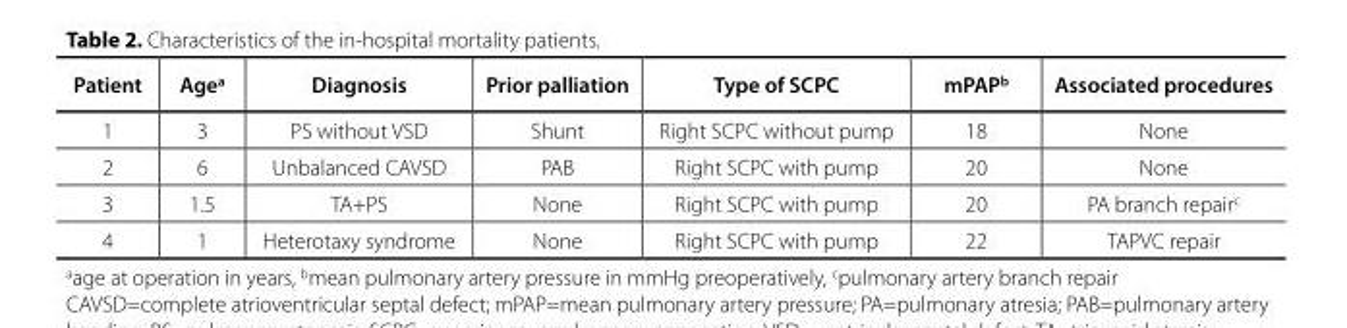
<table><thead><tr><td>Patient</td><td>Age<sup>a</sup></td><td>Diagnosis</td><td>Prior palliation</td><td>Type of SCPC</td><td>mPAP<sup>b</sup></td><td>Associated procedures</td></tr></thead><tbody><tr><td>1</td><td>3</td><td>PS without VSD</td><td>Shunt</td><td>Right SCPC without pump</td><td>18</td><td>None</td></tr><tr><td>2</td><td>6</td><td>Unbalanced CAVSD</td><td>PAB</td><td>Right SCPC with pump</td><td>20</td><td>None</td></tr><tr><td>3</td><td>1.5</td><td>TA+PS</td><td>None</td><td>Right SCPC with pump</td><td>20</td><td>PA branch repair<sup>c</sup></td></tr><tr><td>4</td><td>1</td><td>Heterotaxy syndrome</td><td>None</td><td>Right SCPC with pump</td><td>22</td><td>TAPVC repair</td></tr></tbody></table>